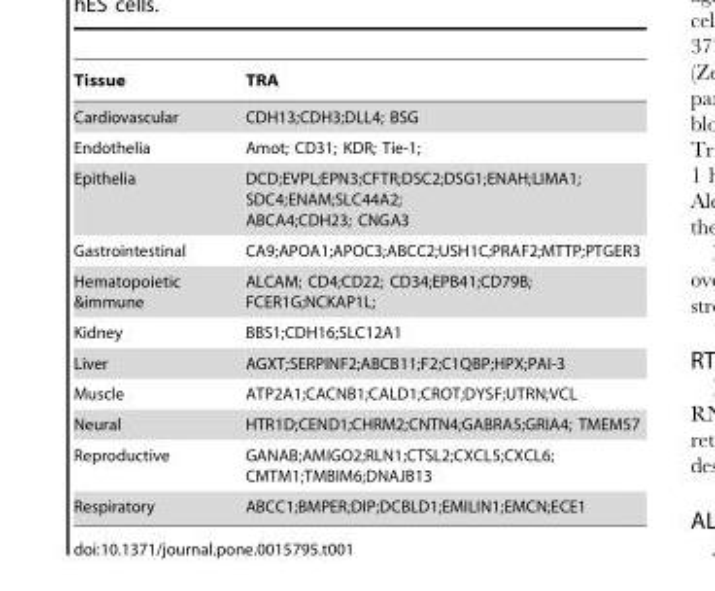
<table><thead><tr><td>Tissue</td><td>TRA</td></tr></thead><tbody><tr><td>Cardiovascular</td><td>CDH13;CDH3;DLL4; BSG</td></tr><tr><td>Endothelia</td><td>Amot; CD31; KDR; Tie-1;</td></tr><tr><td>Epithelia</td><td>DCD;EVPL;EPN3;CFTR;DSC2;DSG1;ENAH;LIMA1; SDC4;ENAM;SLC44A2; ABCA4;CDH23; CNGA3</td></tr><tr><td>Gastrointestinal</td><td>CA9;APOA1;APOC3;ABCC2;USH1C;PRAF2;MTTP;PTGER3</td></tr><tr><td>Hematopoietic &amp;immune</td><td>ALCAM; CD4;CD22; CD34;EPB41;CD79B; FCER1G;NCKAP1L;</td></tr><tr><td>Kidney</td><td>BBS1;CDH16;SLC12A1</td></tr><tr><td>Liver</td><td>AGXT;SERPINF2;ABCB11;F2;C1QBP;HPX;PAI-3</td></tr><tr><td>Muscle</td><td>ATP2A1;CACNB1;CALD1;CROT;DYSF;UTRN;VCL</td></tr><tr><td>Neural</td><td>HTR1D;CEND1;CHRM2;CNTN4;GABRA5;GRIA4; TMEM57</td></tr><tr><td>Reproductive</td><td>GANAB;AMIGO2;RLN1;CTSL2;CXCL5;CXCL6; CMTM1;TMBIM6;DNAJB13</td></tr><tr><td>Respiratory</td><td>ABCC1;BMPER;DIP;DCBLD1;EMILIN1;EMCN;ECE1</td></tr></tbody></table>